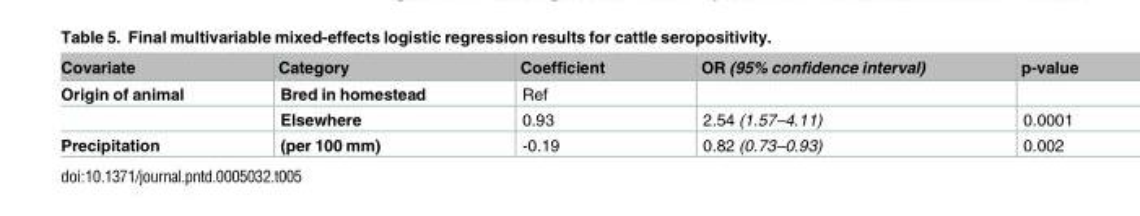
<table><thead><tr><td>Covariate</td><td>Category</td><td>Coefficient</td><td>OR (95% confidence interval)</td><td>p-value</td></tr></thead><tbody><tr><td rowspan="2">Origin of animal</td><td>Bred in homestead</td><td>Ref</td><td></td><td></td></tr><tr><td>Elsewhere</td><td>0.93</td><td>2.54 (1.57–4.11)</td><td>0.0001</td></tr><tr><td>Precipitation</td><td>(per 100 mm)</td><td>-0.19</td><td>0.82 (0.73–0.93)</td><td>0.002</td></tr></tbody></table>